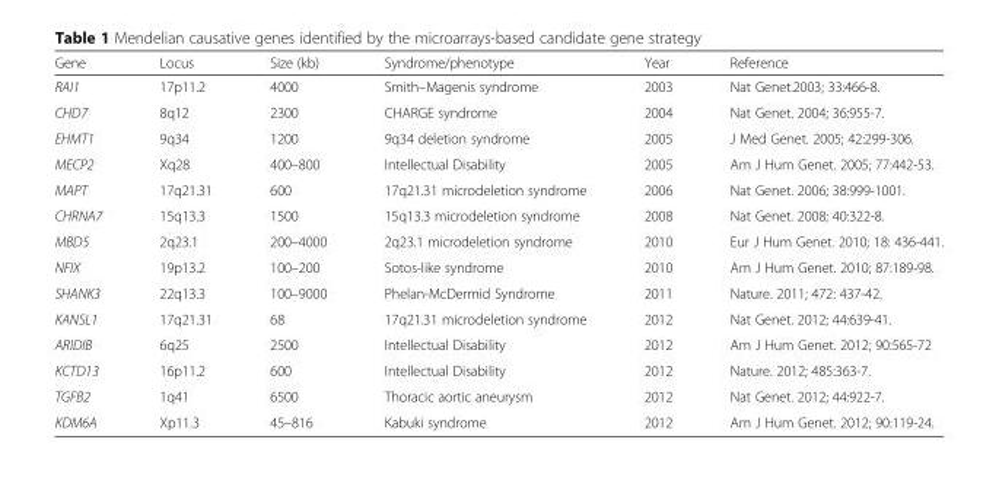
<table><thead><tr><td>Gene</td><td>Locus</td><td>Size (kb)</td><td>Syndrome/phenotype</td><td>Year</td><td>Reference</td></tr></thead><tbody><tr><td>RAI1</td><td>17p11.2</td><td>4000</td><td>Smith–Magenis syndrome</td><td>2003</td><td>Nat Genet.2003; 33:466-8.</td></tr><tr><td>CHD7</td><td>8q12</td><td>2300</td><td>CHARGE syndrome</td><td>2004</td><td>Nat Genet. 2004; 36:955-7.</td></tr><tr><td>EHMT1</td><td>9q34</td><td>1200</td><td>9q34 deletion syndrome</td><td>2005</td><td>J Med Genet. 2005; 42:299-306.</td></tr><tr><td>MECP2</td><td>Xq28</td><td>400–800</td><td>Intellectual Disability</td><td>2005</td><td>Am J Hum Genet. 2005; 77:442-53.</td></tr><tr><td>MAPT</td><td>17q21.31</td><td>600</td><td>17q21.31 microdeletion syndrome</td><td>2006</td><td>Nat Genet. 2006; 38:999-1001.</td></tr><tr><td>CHRNA7</td><td>15q13.3</td><td>1500</td><td>15q13.3 microdeletion syndrome</td><td>2008</td><td>Nat Genet. 2008; 40:322-8.</td></tr><tr><td>MBD5</td><td>2q23.1</td><td>200–4000</td><td>2q23.1 microdeletion syndrome</td><td>2010</td><td>Eur J Hum Genet. 2010; 18: 436-441.</td></tr><tr><td>NFIX</td><td>19p13.2</td><td>100–200</td><td>Sotos-like syndrome</td><td>2010</td><td>Am J Hum Genet. 2010; 87:189-98.</td></tr><tr><td>SHANK3</td><td>22q13.3</td><td>100–9000</td><td>Phelan-McDermid Syndrome</td><td>2011</td><td>Nature. 2011; 472: 437-42.</td></tr><tr><td>KANSL1</td><td>17q21.31</td><td>68</td><td>17q21.31 microdeletion syndrome</td><td>2012</td><td>Nat Genet. 2012; 44:639-41.</td></tr><tr><td>ARIDIB</td><td>6q25</td><td>2500</td><td>Intellectual Disability</td><td>2012</td><td>Am J Hum Genet. 2012; 90:565-72</td></tr><tr><td>KCTD13</td><td>16p11.2</td><td>600</td><td>Intellectual Disability</td><td>2012</td><td>Nature. 2012; 485:363-7.</td></tr><tr><td>TGFB2</td><td>1q41</td><td>6500</td><td>Thoracic aortic aneurysm</td><td>2012</td><td>Nat Genet. 2012; 44:922-7.</td></tr><tr><td>KDM6A</td><td>Xp11.3</td><td>45–816</td><td>Kabuki syndrome</td><td>2012</td><td>Am J Hum Genet. 2012; 90:119-24.</td></tr></tbody></table>